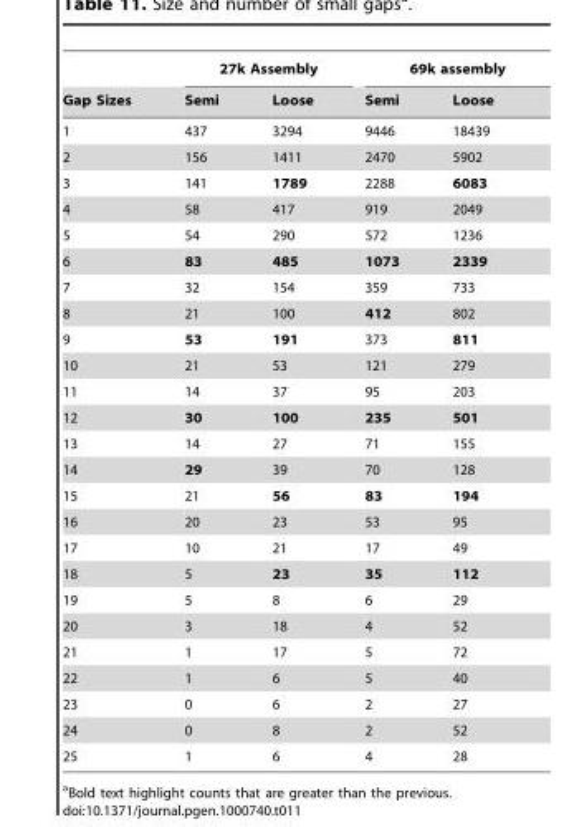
<table><thead><tr><td rowspan="2">Gap Sizes</td><td colspan="2">27k Assembly</td><td colspan="2">69k assembly</td></tr><tr><td>Semi</td><td>Loose</td><td>Semi</td><td>Loose</td></tr></thead><tbody><tr><td>1</td><td>437</td><td>3294</td><td>9446</td><td>18439</td></tr><tr><td>2</td><td>156</td><td>1411</td><td>2470</td><td>5902</td></tr><tr><td>3</td><td>141</td><td>1789</td><td>2288</td><td>6083</td></tr><tr><td>4</td><td>58</td><td>417</td><td>919</td><td>2049</td></tr><tr><td>5</td><td>54</td><td>290</td><td>572</td><td>1236</td></tr><tr><td>6</td><td>83</td><td>485</td><td>1073</td><td>2339</td></tr><tr><td>7</td><td>32</td><td>154</td><td>359</td><td>733</td></tr><tr><td>8</td><td>21</td><td>100</td><td>412</td><td>802</td></tr><tr><td>9</td><td>53</td><td>191</td><td>373</td><td>811</td></tr><tr><td>10</td><td>21</td><td>53</td><td>121</td><td>279</td></tr><tr><td>11</td><td>14</td><td>37</td><td>95</td><td>203</td></tr><tr><td>12</td><td>30</td><td>100</td><td>235</td><td>501</td></tr><tr><td>13</td><td>14</td><td>27</td><td>71</td><td>155</td></tr><tr><td>14</td><td>29</td><td>39</td><td>70</td><td>128</td></tr><tr><td>15</td><td>21</td><td>56</td><td>83</td><td>194</td></tr><tr><td>16</td><td>20</td><td>23</td><td>53</td><td>95</td></tr><tr><td>17</td><td>10</td><td>21</td><td>17</td><td>49</td></tr><tr><td>18</td><td>5</td><td>23</td><td>35</td><td>112</td></tr><tr><td>19</td><td>5</td><td>8</td><td>6</td><td>29</td></tr><tr><td>20</td><td>3</td><td>18</td><td>4</td><td>52</td></tr><tr><td>21</td><td>1</td><td>17</td><td>5</td><td>72</td></tr><tr><td>22</td><td>1</td><td>6</td><td>5</td><td>40</td></tr><tr><td>23</td><td>0</td><td>6</td><td>2</td><td>27</td></tr><tr><td>24</td><td>0</td><td>8</td><td>2</td><td>52</td></tr><tr><td>25</td><td>1</td><td>6</td><td>4</td><td>28</td></tr></tbody></table>